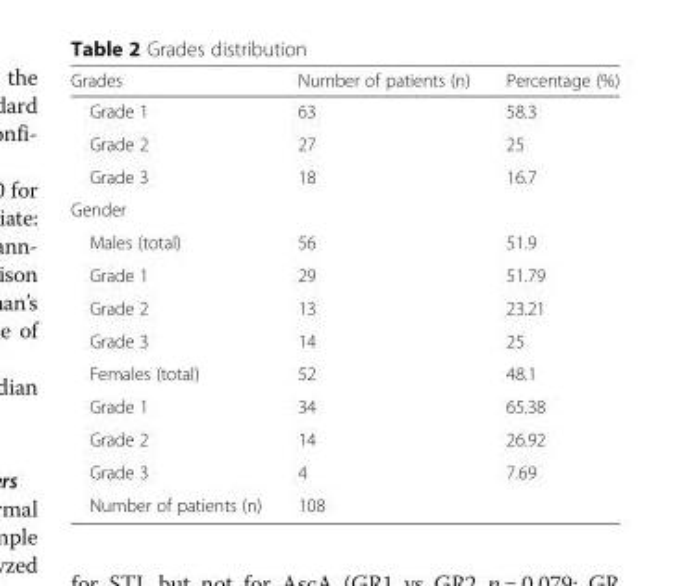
<table><thead><tr><td>Grades</td><td>Number of patients (n)</td><td>Percentage (%)</td></tr></thead><tbody><tr><td>Grade 1</td><td>63</td><td>58.3</td></tr><tr><td>Grade 2</td><td>27</td><td>25</td></tr><tr><td>Grade 3</td><td>18</td><td>16.7</td></tr><tr><td colspan="3">Gender</td></tr><tr><td>Males (total)</td><td>56</td><td>51.9</td></tr><tr><td>Grade 1</td><td>29</td><td>51.79</td></tr><tr><td>Grade 2</td><td>13</td><td>23.21</td></tr><tr><td>Grade 3</td><td>14</td><td>25</td></tr><tr><td>Females (total)</td><td>52</td><td>48.1</td></tr><tr><td>Grade 1</td><td>34</td><td>65.38</td></tr><tr><td>Grade 2</td><td>14</td><td>26.92</td></tr><tr><td>Grade 3</td><td>4</td><td>7.69</td></tr><tr><td>Number of patients (n)</td><td colspan="2">108</td></tr></tbody></table>